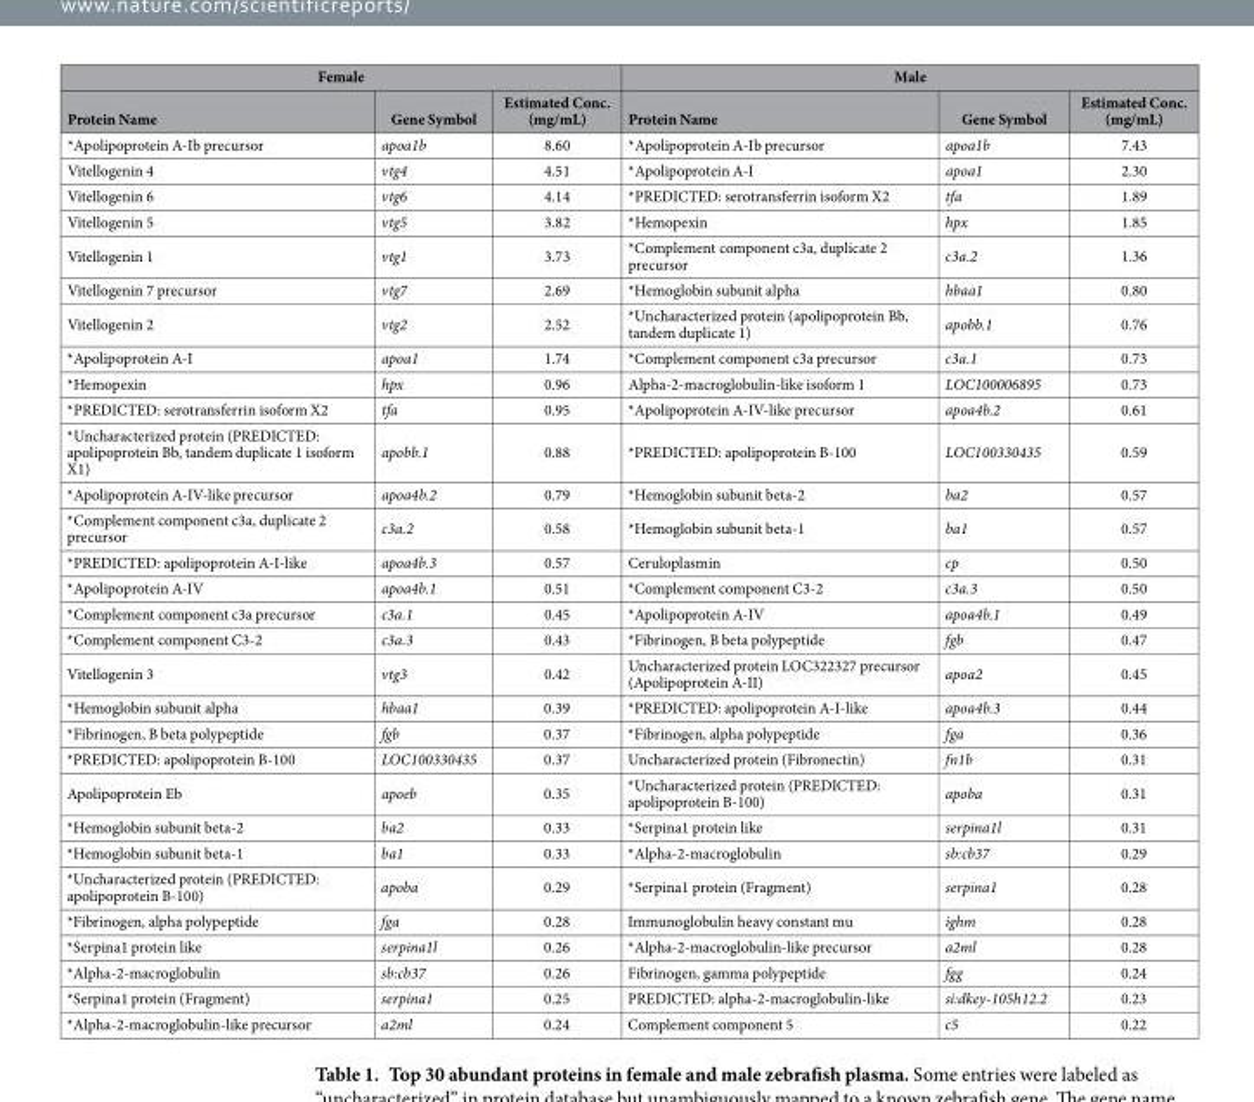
<table><thead><tr><td colspan="3">Female</td><td colspan="3">Male</td></tr><tr><td>Protein Name</td><td>Gene Symbol</td><td>Estimated Conc. (mg/mL)</td><td>Protein Name</td><td>Gene Symbol</td><td>Estimated Conc. (mg/mL)</td></tr></thead><tbody><tr><td>*Apolipoprotein A-Ib precursor</td><td>apoa1b</td><td>8.60</td><td>*Apolipoprotein A-Ib precursor</td><td>apoa1b</td><td>7.43</td></tr><tr><td>Vitellogenin 4</td><td>vtg4</td><td>4.51</td><td>*Apolipoprotein A-I</td><td>apoa1</td><td>2.30</td></tr><tr><td>Vitellogenin 6</td><td>vtg6</td><td>4.14</td><td>*PREDICTED: serotransferrin isoform X2</td><td>tfa</td><td>1.89</td></tr><tr><td>Vitellogenin 5</td><td>vtg5</td><td>3.82</td><td>*Hemopexin</td><td>hpx</td><td>1.85</td></tr><tr><td>Vitellogenin 1</td><td>vtg1</td><td>3.73</td><td>*Complement component c3a, duplicate 2 precursor</td><td>c3a.2</td><td>1.36</td></tr><tr><td>Vitellogenin 7 precursor</td><td>vtg7</td><td>2.69</td><td>*Hemoglobin subunit alpha</td><td>hbaa1</td><td>0.80</td></tr><tr><td>Vitellogenin 2</td><td>vtg2</td><td>2.52</td><td>*Uncharacterized protein (apolipoprotein Bb, tandem duplicate 1)</td><td>apobb.1</td><td>0.76</td></tr><tr><td>*Apolipoprotein A-I</td><td>apoa1</td><td>1.74</td><td>*Complement component c3a precursor</td><td>c3a.1</td><td>0.73</td></tr><tr><td>*Hemopexin</td><td>hpx</td><td>0.96</td><td>Alpha-2-macroglobulin-like isoform 1</td><td>LOC100006895</td><td>0.73</td></tr><tr><td>*PREDICTED: serotransferrin isoform X2</td><td>tfa</td><td>0.95</td><td>*Apolipoprotein A-IV-like precursor</td><td>apoa4b.2</td><td>0.61</td></tr><tr><td>*Uncharacterized protein (PREDICTED: apolipoprotein Bb, tandem duplicate 1 isoform X1)</td><td>apobb.1</td><td>0.88</td><td>*PREDICTED: apolipoprotein B-100</td><td>LOC100330435</td><td>0.59</td></tr><tr><td>*Apolipoprotein A-IV-like precursor</td><td>apoa4b.2</td><td>0.79</td><td>*Hemoglobin subunit beta-2</td><td>ba2</td><td>0.57</td></tr><tr><td>*Complement component c3a, duplicate 2 precursor</td><td>c3a.2</td><td>0.58</td><td>*Hemoglobin subunit beta-1</td><td>ba1</td><td>0.57</td></tr><tr><td>*PREDICTED: apolipoprotein A-I-like</td><td>apoa4b.3</td><td>0.57</td><td>Ceruloplasmin</td><td>cp</td><td>0.50</td></tr><tr><td>*Apolipoprotein A-IV</td><td>apoa4b.1</td><td>0.51</td><td>*Complement component C3-2</td><td>c3a.3</td><td>0.50</td></tr><tr><td>*Complement component c3a precursor</td><td>c3a.1</td><td>0.45</td><td>*Apolipoprotein A-IV</td><td>apoa4b.1</td><td>0.49</td></tr><tr><td>*Complement component C3-2</td><td>c3a.3</td><td>0.43</td><td>*Fibrinogen, B beta polypeptide</td><td>fgb</td><td>0.47</td></tr><tr><td>Vitellogenin 3</td><td>vtg3</td><td>0.42</td><td>Uncharacterized protein LOC322327 precursor (Apolipoprotein A-II)</td><td>apoa2</td><td>0.45</td></tr><tr><td>*Hemoglobin subunit alpha</td><td>hbaa1</td><td>0.39</td><td>*PREDICTED: apolipoprotein A-I-like</td><td>apoa4b.3</td><td>0.44</td></tr><tr><td>*Fibrinogen, B beta polypeptide</td><td>fgb</td><td>0.37</td><td>*Fibrinogen, alpha polypeptide</td><td>fga</td><td>0.36</td></tr><tr><td>*PREDICTED: apolipoprotein B-100</td><td>LOC100330435</td><td>0.37</td><td>Uncharacterized protein (Fibronectin)</td><td>fn1b</td><td>0.31</td></tr><tr><td>Apolipoprotein Eb</td><td>apoeb</td><td>0.35</td><td>*Uncharacterized protein (PREDICTED: apolipoprotein B-100)</td><td>apoba</td><td>0.31</td></tr><tr><td>*Hemoglobin subunit beta-2</td><td>ba2</td><td>0.33</td><td>*Serpina1 protein like</td><td>serpina1l</td><td>0.31</td></tr><tr><td>*Hemoglobin subunit beta-1</td><td>ba1</td><td>0.33</td><td>*Alpha-2-macroglobulin</td><td>sb:cb37</td><td>0.29</td></tr><tr><td>*Uncharacterized protein (PREDICTED: apolipoprotein B-100)</td><td>apoba</td><td>0.29</td><td>*Serpina1 protein (Fragment)</td><td>serpina1</td><td>0.28</td></tr><tr><td>*Fibrinogen, alpha polypeptide</td><td>fga</td><td>0.28</td><td>Immunoglobulin heavy constant mu</td><td>ighm</td><td>0.28</td></tr><tr><td>*Serpina1 protein like</td><td>serpina1l</td><td>0.26</td><td>*Alpha-2-macroglobulin-like precursor</td><td>a2ml</td><td>0.28</td></tr><tr><td>*Alpha-2-macroglobulin</td><td>sb:cb37</td><td>0.26</td><td>Fibrinogen, gamma polypeptide</td><td>fgg</td><td>0.24</td></tr><tr><td>*Serpina1 protein (Fragment)</td><td>serpina1</td><td>0.25</td><td>PREDICTED: alpha-2-macroglobulin-like</td><td>si:dkey-105h12.2</td><td>0.23</td></tr><tr><td>*Alpha-2-macroglobulin-like precursor</td><td>a2ml</td><td>0.24</td><td>Complement component 5</td><td>c5</td><td>0.22</td></tr></tbody></table>